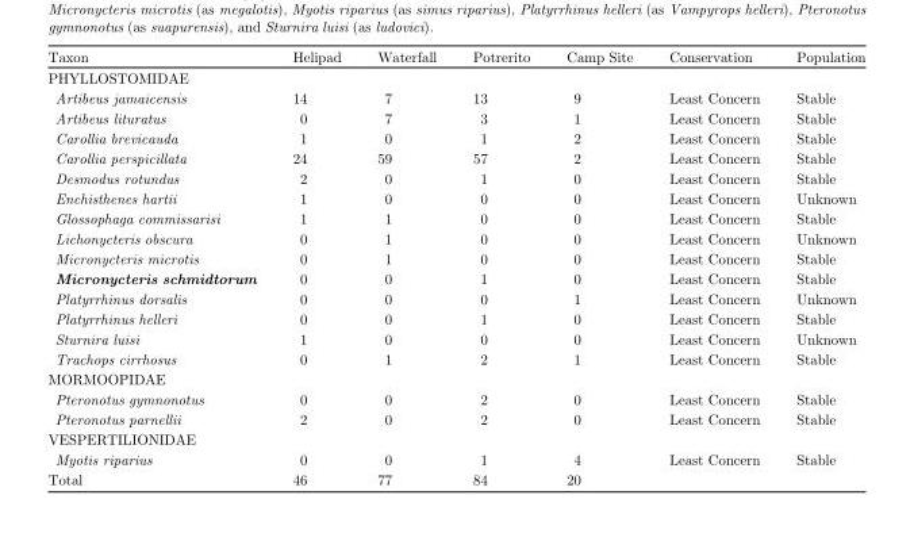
<table><thead><tr><td>Taxon</td><td>Helipad</td><td>Waterfall</td><td>Potrerito</td><td>Camp Site</td><td>Conservation</td><td>Population</td></tr></thead><tbody><tr><td colspan="7">PHYLLOSTOMIDAE</td></tr><tr><td>Artibeus jamaicensis</td><td>14</td><td>7</td><td>13</td><td>9</td><td>Least Concern</td><td>Stable</td></tr><tr><td>Artibeus lituratus</td><td>0</td><td>7</td><td>3</td><td>1</td><td>Least Concern</td><td>Stable</td></tr><tr><td>Carollia brevicauda</td><td>1</td><td>0</td><td>1</td><td>2</td><td>Least Concern</td><td>Stable</td></tr><tr><td>Carollia perspicillata</td><td>24</td><td>59</td><td>57</td><td>2</td><td>Least Concern</td><td>Stable</td></tr><tr><td>Desmodus rotundus</td><td>2</td><td>0</td><td>1</td><td>0</td><td>Least Concern</td><td>Stable</td></tr><tr><td>Enchisthenes hartii</td><td>1</td><td>0</td><td>0</td><td>0</td><td>Least Concern</td><td>Unknown</td></tr><tr><td>Glossophaga commissarisi</td><td>1</td><td>1</td><td>0</td><td>0</td><td>Least Concern</td><td>Stable</td></tr><tr><td>Lichonycteris obscura</td><td>0</td><td>1</td><td>0</td><td>0</td><td>Least Concern</td><td>Unknown</td></tr><tr><td>Micronycteris microtis</td><td>0</td><td>1</td><td>0</td><td>0</td><td>Least Concern</td><td>Stable</td></tr><tr><td>Micronycteris schmidtorum</td><td>0</td><td>0</td><td>1</td><td>0</td><td>Least Concern</td><td>Stable</td></tr><tr><td>Platyrrhinus dorsalis</td><td>0</td><td>0</td><td>0</td><td>1</td><td>Least Concern</td><td>Unknown</td></tr><tr><td>Platyrrhinus helleri</td><td>0</td><td>0</td><td>1</td><td>0</td><td>Least Concern</td><td>Stable</td></tr><tr><td>Sturnira luisi</td><td>1</td><td>0</td><td>0</td><td>0</td><td>Least Concern</td><td>Unknown</td></tr><tr><td>Trachops cirrhosus</td><td>0</td><td>1</td><td>2</td><td>1</td><td>Least Concern</td><td>Stable</td></tr><tr><td colspan="7">MORMOOPIDAE</td></tr><tr><td>Pteronotus gymnonotus</td><td>0</td><td>0</td><td>2</td><td>0</td><td>Least Concern</td><td>Stable</td></tr><tr><td>Pteronotus parnellii</td><td>2</td><td>0</td><td>2</td><td>0</td><td>Least Concern</td><td>Stable</td></tr><tr><td colspan="7">VESPERTILIONIDAE</td></tr><tr><td>Myotis riparius</td><td>0</td><td>0</td><td>1</td><td>4</td><td>Least Concern</td><td>Stable</td></tr><tr><td>Total</td><td>46</td><td>77</td><td>84</td><td>20</td><td></td><td></td></tr></tbody></table>